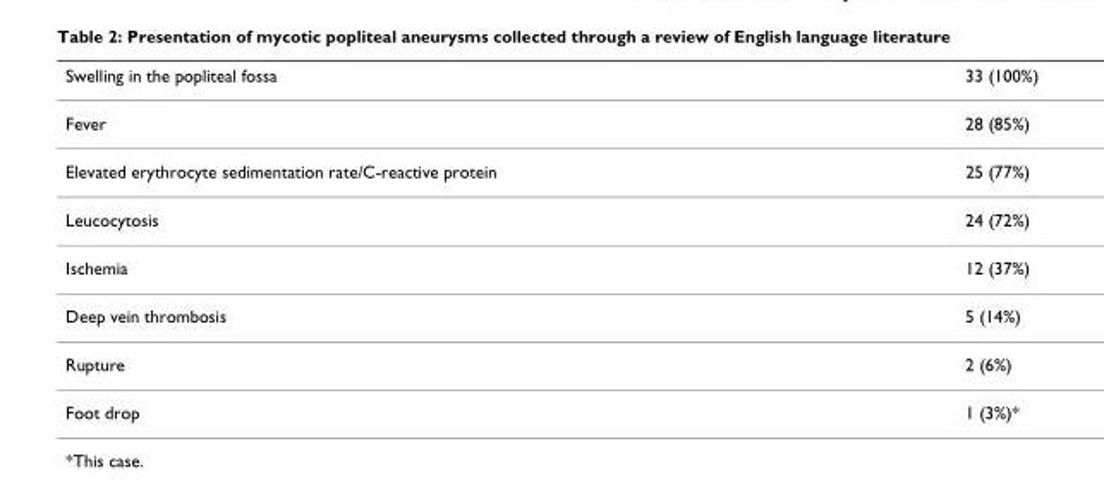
<table><thead><tr><td>Swelling in the popliteal fossa</td><td>33 (100%)</td></tr></thead><tbody><tr><td>Fever</td><td>28 (85%)</td></tr><tr><td>Elevated erythrocyte sedimentation rate/C-reactive protein</td><td>25 (77%)</td></tr><tr><td>Leucocytosis</td><td>24 (72%)</td></tr><tr><td>Ischemia</td><td>12 (37%)</td></tr><tr><td>Deep vein thrombosis</td><td>5 (14%)</td></tr><tr><td>Rupture</td><td>2 (6%)</td></tr><tr><td>Foot drop</td><td>1 (3%)*</td></tr></tbody></table>